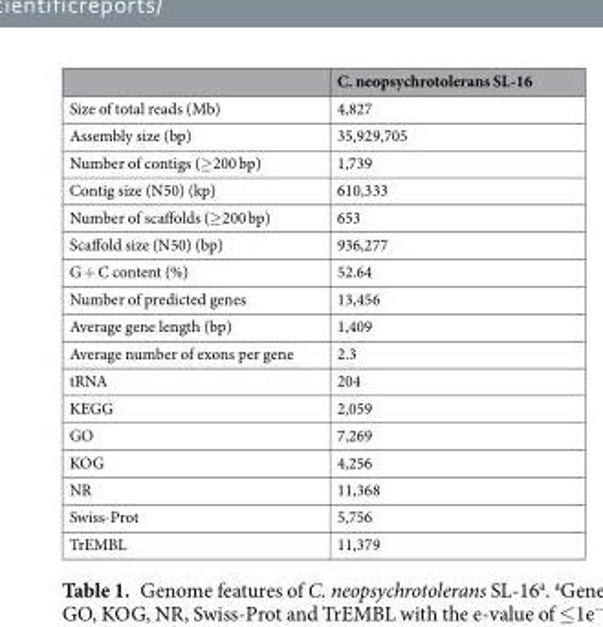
<table><thead><tr><td></td><td>C. neopsychrotolerans SL-16</td></tr></thead><tbody><tr><td>Size of total reads (Mb)</td><td>4,827</td></tr><tr><td>Assembly size (bp)</td><td>35,929,705</td></tr><tr><td>Number of contigs (≥200 bp)</td><td>1,739</td></tr><tr><td>Contig size (N50) (kp)</td><td>610,333</td></tr><tr><td>Number of scaffolds (≥200 bp)</td><td>653</td></tr><tr><td>Scaffold size (N50) (bp)</td><td>936,277</td></tr><tr><td>G + C content (%)</td><td>52.64</td></tr><tr><td>Number of predicted genes</td><td>13,456</td></tr><tr><td>Average gene length (bp)</td><td>1,409</td></tr><tr><td>Average number of exons per gene</td><td>2.3</td></tr><tr><td>tRNA</td><td>204</td></tr><tr><td>KEGG</td><td>2,059</td></tr><tr><td>GO</td><td>7,269</td></tr><tr><td>KOG</td><td>4,256</td></tr><tr><td>NR</td><td>11,368</td></tr><tr><td>Swiss-Prot</td><td>5,756</td></tr><tr><td>TrEMBL</td><td>11,379</td></tr></tbody></table>